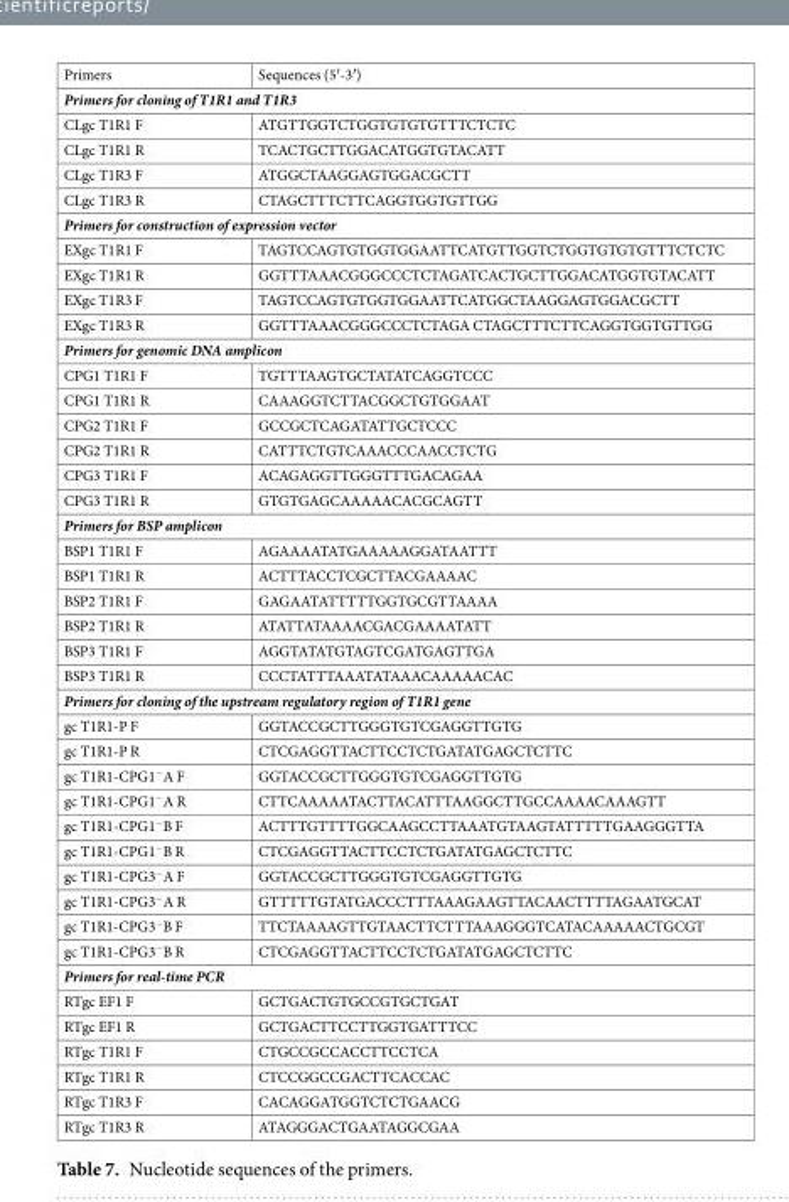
<table><tbody><tr><td>Primers</td><td>Sequences (5′-3′)</td></tr><tr><td colspan="2">Primers for cloning of T1R1 and T1R3</td></tr><tr><td>CLgc T1R1 F</td><td>ATGTTGGTCTGGTGTGTGTTTCTCTC</td></tr><tr><td>CLgc T1R1 R</td><td>TCACTGCTTGGACATGGTGTACATT</td></tr><tr><td>CLgc T1R3 F</td><td>ATGGCTAAGGAGTGGACGCTT</td></tr><tr><td>CLgc T1R3 R</td><td>CTAGCTTTCTTCAGGTGGTGTTGG</td></tr><tr><td colspan="2">Primers for construction of expression vector</td></tr><tr><td>EXgc T1R1 F</td><td>TAGTCCAGTGTGGTGGAATTCATGTTGGTCTGGTGTGTGTTTCTCTC</td></tr><tr><td>EXgc T1R1 R</td><td>GGTTTAAACGGGCCCTCTAGATCACTGCTTGGACATGGTGTACATT</td></tr><tr><td>EXgc T1R3 F</td><td>TAGTCCAGTGTGGTGGAATTCATGGCTAAGGAGTGGACGCTT</td></tr><tr><td>EXgc T1R3 R</td><td>GGTTTAAACGGGCCCTCTAGA CTAGCTTTCTTCAGGTGGTGTTGG</td></tr><tr><td colspan="2">Primers for genomic DNA amplicon</td></tr><tr><td>CPG1 T1R1 F</td><td>TGTTTAAGTGCTATATCAGGTCCC</td></tr><tr><td>CPG1 T1R1 R</td><td>CAAAGGTCTTACGGCTGTGGAAT</td></tr><tr><td>CPG2 T1R1 F</td><td>GCCGCTCAGATATTGCTCCC</td></tr><tr><td>CPG2 T1R1 R</td><td>CATTTCTGTCAAACCCAACCTCTG</td></tr><tr><td>CPG3 T1R1 F</td><td>ACAGAGGTTGGGTTTGACAGAA</td></tr><tr><td>CPG3 T1R1 R</td><td>GTGTGAGCAAAAACACGCAGTT</td></tr><tr><td colspan="2">Primers for BSP amplicon</td></tr><tr><td>BSP1 T1R1 F</td><td>AGAAAATATGAAAAAGGATAATTT</td></tr><tr><td>BSP1 T1R1 R</td><td>ACTTTACCTCGCTTACGAAAAC</td></tr><tr><td>BSP2 T1R1 F</td><td>GAGAATATTTTTGGTGCGTTAAAA</td></tr><tr><td>BSP2 T1R1 R</td><td>ATATTATAAAACGACGAAAATATT</td></tr><tr><td>BSP3 T1R1 F</td><td>AGGTATATGTAGTCGATGAGTTGA</td></tr><tr><td>BSP3 T1R1 R</td><td>CCCTATTTAAATATAAACAAAAACAC</td></tr><tr><td colspan="2">Primers for cloning of the upstream regulatory region of T1R1 gene</td></tr><tr><td>gc T1R1-P F</td><td>GGTACCGCTTGGGTGTCGAGGTTGTG</td></tr><tr><td>gc T1R1-P R</td><td>CTCGAGGTTACTTCCTCTGATATGAGCTCTTC</td></tr><tr><td>gc T1R1-CPG1<sup>−</sup>A F</td><td>GGTACCGCTTGGGTGTCGAGGTTGTG</td></tr><tr><td>gc T1R1-CPG1<sup>−</sup>A R</td><td>CTTCAAAAATACTTACATTTAAGGCTTGCCAAAACAAAGTT</td></tr><tr><td>gc T1R1-CPG1<sup>−</sup>B F</td><td>ACTTTGTTTTGGCAAGCCTTAAATGTAAGTATTTTTGAAGGGTTA</td></tr><tr><td>gc T1R1-CPG1<sup>−</sup>B R</td><td>CTCGAGGTTACTTCCTCTGATATGAGCTCTTC</td></tr><tr><td>gc T1R1-CPG3<sup>−</sup>A F</td><td>GGTACCGCTTGGGTGTCGAGGTTGTG</td></tr><tr><td>gc T1R1-CPG3<sup>−</sup>A R</td><td>GTTTTTGTATGACCCTTTAAAGAAGTTACAACTTTTAGAATGCAT</td></tr><tr><td>gc T1R1-CPG3<sup>−</sup>B F</td><td>TTCTAAAAGTTGTAACTTCTTTAAAGGGTCATACAAAAACTGCGT</td></tr><tr><td>gc T1R1-CPG3<sup>−</sup>B R</td><td>CTCGAGGTTACTTCCTCTGATATGAGCTCTTC</td></tr><tr><td colspan="2">Primers for real-time PCR</td></tr><tr><td>RTgc EF1 F</td><td>GCTGACTGTGCCGTGCTGAT</td></tr><tr><td>RTgc EF1 R</td><td>GCTGACTTCCTTGGTGATTTCC</td></tr><tr><td>RTgc T1R1 F</td><td>CTGCCGCCACCTTCCTCA</td></tr><tr><td>RTgc T1R1 R</td><td>CTCCGGCCGACTTCACCAC</td></tr><tr><td>RTgc T1R3 F</td><td>CACAGGATGGTCTCTGAACG</td></tr><tr><td>RTgc T1R3 R</td><td>ATAGGGACTGAATAGGCGAA</td></tr></tbody></table>